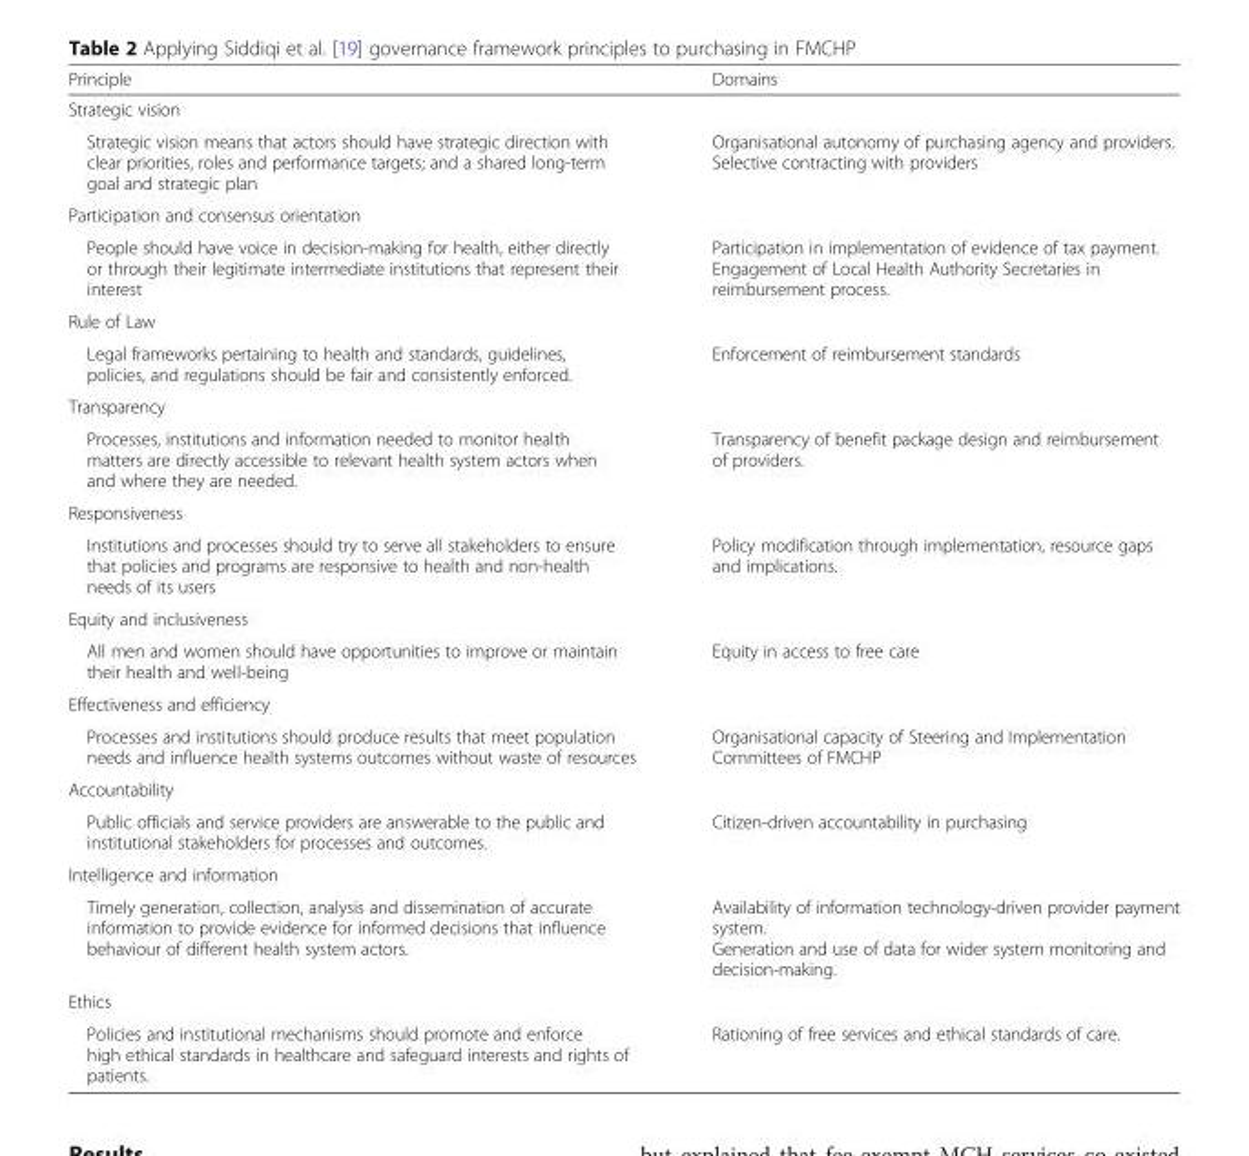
<table><thead><tr><td>Principle</td><td>Domains</td></tr></thead><tbody><tr><td colspan="2">Strategic vision</td></tr><tr><td>Strategic vision means that actors should have strategic direction with clear priorities, roles and performance targets; and a shared long-term goal and strategic plan</td><td>Organisational autonomy of purchasing agency and providers. Selective contracting with providers</td></tr><tr><td colspan="2">Participation and consensus orientation</td></tr><tr><td>People should have voice in decision-making for health, either directly or through their legitimate intermediate institutions that represent their interest</td><td>Participation in implementation of evidence of tax payment. Engagement of Local Health Authority Secretaries in reimbursement process.</td></tr><tr><td colspan="2">Rule of Law</td></tr><tr><td>Legal frameworks pertaining to health and standards, guidelines, policies, and regulations should be fair and consistently enforced.</td><td>Enforcement of reimbursement standards</td></tr><tr><td colspan="2">Transparency</td></tr><tr><td>Processes, institutions and information needed to monitor health matters are directly accessible to relevant health system actors when and where they are needed.</td><td>Transparency of benefit package design and reimbursement of providers.</td></tr><tr><td colspan="2">Responsiveness</td></tr><tr><td>Institutions and processes should try to serve all stakeholders to ensure that policies and programs are responsive to health and non-health needs of its users</td><td>Policy modification through implementation, resource gaps and implications.</td></tr><tr><td colspan="2">Equity and inclusiveness</td></tr><tr><td>All men and women should have opportunities to improve or maintain their health and well-being</td><td>Equity in access to free care</td></tr><tr><td colspan="2">Effectiveness and efficiency</td></tr><tr><td>Processes and institutions should produce results that meet population needs and influence health systems outcomes without waste of resources</td><td>Organisational capacity of Steering and Implementation Committees of FMCHP</td></tr><tr><td colspan="2">Accountability</td></tr><tr><td>Public officials and service providers are answerable to the public and institutional stakeholders for processes and outcomes.</td><td>Citizen-driven accountability in purchasing</td></tr><tr><td colspan="2">Intelligence and information</td></tr><tr><td>Timely generation, collection, analysis and dissemination of accurate information to provide evidence for informed decisions that influence behaviour of different health system actors.</td><td>Availability of information technology-driven provider payment system. Generation and use of data for wider system monitoring and decision-making.</td></tr><tr><td colspan="2">Ethics</td></tr><tr><td>Policies and institutional mechanisms should promote and enforce high ethical standards in healthcare and safeguard interests and rights of patients.</td><td>Rationing of free services and ethical standards of care.</td></tr></tbody></table>